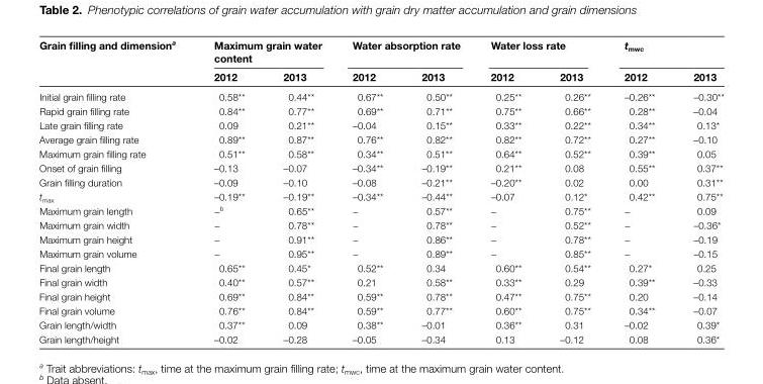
<table><thead><tr><td rowspan="2">Grain filling and dimension<sup>a</sup></td><td colspan="2">Maximum grain water content</td><td colspan="2">Water absorption rate</td><td colspan="2">Water loss rate</td><td colspan="2">t<sub>mwc</sub></td></tr><tr><td>2012</td><td>2013</td><td>2012</td><td>2013</td><td>2012</td><td>2013</td><td>2012</td><td>2013</td></tr></thead><tbody><tr><td>Initial grain filling rate</td><td>0.58**</td><td>0.44**</td><td>0.67**</td><td>0.50**</td><td>0.25**</td><td>0.26**</td><td>–0.26**</td><td>–0.30**</td></tr><tr><td>Rapid grain filling rate</td><td>0.84**</td><td>0.77**</td><td>0.69**</td><td>0.71**</td><td>0.75**</td><td>0.66**</td><td>0.28**</td><td>–0.04</td></tr><tr><td>Late grain filling rate</td><td>0.09</td><td>0.21**</td><td>–0.04</td><td>0.15**</td><td>0.33**</td><td>0.22**</td><td>0.34**</td><td>0.13*</td></tr><tr><td>Average grain filling rate</td><td>0.89**</td><td>0.87**</td><td>0.76**</td><td>0.82**</td><td>0.82**</td><td>0.72**</td><td>0.27**</td><td>–0.10</td></tr><tr><td>Maximum grain filling rate</td><td>0.51**</td><td>0.58**</td><td>0.34**</td><td>0.51**</td><td>0.64**</td><td>0.52**</td><td>0.39**</td><td>0.05</td></tr><tr><td>Onset of grain filling</td><td>–0.13</td><td>–0.07</td><td>–0.34**</td><td>–0.19**</td><td>0.21**</td><td>0.08</td><td>0.55**</td><td>0.37**</td></tr><tr><td>Grain filling duration</td><td>–0.09</td><td>–0.10</td><td>–0.08</td><td>–0.21**</td><td>–0.20**</td><td>0.02</td><td>0.00</td><td>0.31**</td></tr><tr><td>t<sub>max</sub></td><td>–0.19**</td><td>–0.19**</td><td>–0.34**</td><td>–0.44**</td><td>–0.07</td><td>0.12*</td><td>0.42**</td><td>0.75**</td></tr><tr><td>Maximum grain length</td><td>−<sup>b</sup></td><td>0.65**</td><td>−</td><td>0.57**</td><td>−</td><td>0.75**</td><td>−</td><td>0.09</td></tr><tr><td>Maximum grain width</td><td>−</td><td>0.78**</td><td>−</td><td>0.78**</td><td>−</td><td>0.52**</td><td>−</td><td>–0.36*</td></tr><tr><td>Maximum grain height</td><td>−</td><td>0.91**</td><td>−</td><td>0.86**</td><td>−</td><td>0.78**</td><td>−</td><td>–0.19</td></tr><tr><td>Maximum grain volume</td><td>−</td><td>0.95**</td><td>−</td><td>0.89**</td><td>−</td><td>0.85**</td><td>−</td><td>–0.15</td></tr><tr><td>Final grain length</td><td>0.65**</td><td>0.45*</td><td>0.52**</td><td>0.34</td><td>0.60**</td><td>0.54**</td><td>0.27*</td><td>0.25</td></tr><tr><td>Final grain width</td><td>0.40**</td><td>0.57**</td><td>0.21</td><td>0.58**</td><td>0.33**</td><td>0.29</td><td>0.39**</td><td>–0.33</td></tr><tr><td>Final grain height</td><td>0.69**</td><td>0.84**</td><td>0.59**</td><td>0.78**</td><td>0.47**</td><td>0.75**</td><td>0.20</td><td>–0.14</td></tr><tr><td>Final grain volume</td><td>0.76**</td><td>0.84**</td><td>0.59**</td><td>0.77**</td><td>0.60**</td><td>0.75**</td><td>0.34**</td><td>–0.07</td></tr><tr><td>Grain length/width</td><td>0.37**</td><td>0.09</td><td>0.38**</td><td>–0.01</td><td>0.36**</td><td>0.31</td><td>–0.02</td><td>0.39*</td></tr><tr><td>Grain length/height</td><td>–0.02</td><td>–0.28</td><td>–0.05</td><td>–0.34</td><td>0.13</td><td>–0.12</td><td>0.08</td><td>0.36*</td></tr></tbody></table>